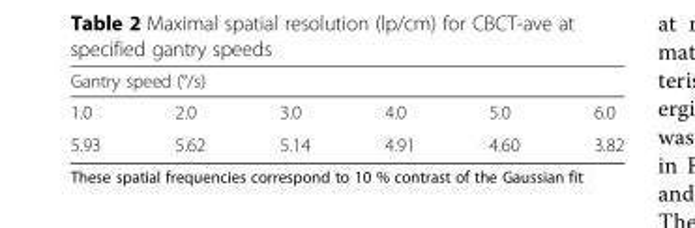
<table><thead><tr><td colspan="6">Gantry speed (°/s)</td></tr><tr><td>1.0</td><td>2.0</td><td>3.0</td><td>4.0</td><td>5.0</td><td>6.0</td></tr></thead><tbody><tr><td>5.93</td><td>5.62</td><td>5.14</td><td>4.91</td><td>4.60</td><td>3.82</td></tr></tbody></table>